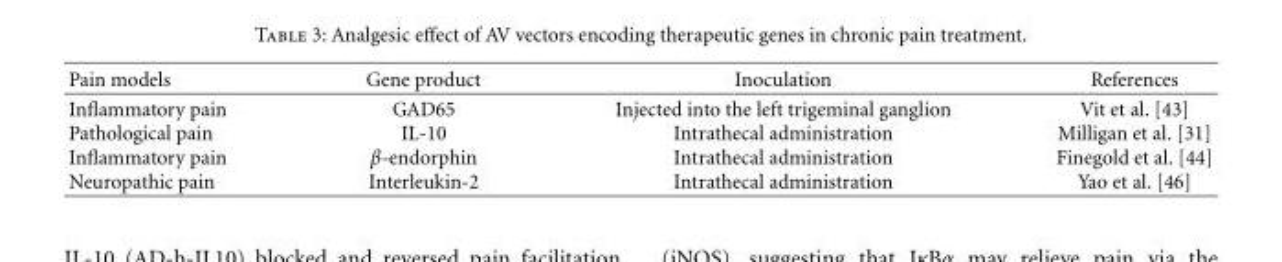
<table><thead><tr><td>Pain models</td><td>Gene product</td><td>Inoculation</td><td>References</td></tr></thead><tbody><tr><td>Inflammatory pain Pathological pain Inflammatory pain Neuropathic pain</td><td>GAD65 IL-10 β-endorphin Interleukin-2</td><td>Injected into the left trigeminal ganglion Intrathecal administration Intrathecal administration Intrathecal administration</td><td>Vit et al. [43] Milligan et al. [31] Finegold et al. [44] Yao et al. [46]</td></tr></tbody></table>